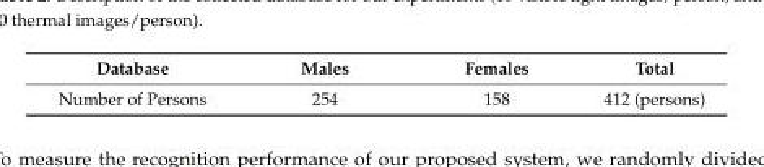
<table><thead><tr><td>Database</td><td>Males</td><td>Females</td><td>Total</td></tr></thead><tbody><tr><td>Number of Persons</td><td>254</td><td>158</td><td>412 (persons)</td></tr></tbody></table>